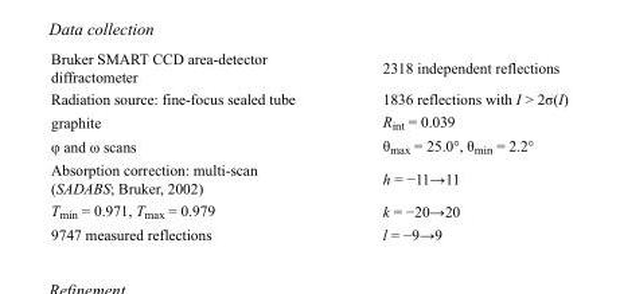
<table><tbody><tr><td>Bruker SMART CCD area-detector diffractometer</td><td>2318 independent reflections</td></tr><tr><td>Radiation source: fine-focus sealed tube</td><td>1836 reflections with I &gt; 2σ(I)</td></tr><tr><td>graphite</td><td>R<sub>int</sub> = 0.039</td></tr><tr><td>φ and ω scans</td><td>θ<sub>max</sub> = 25.0°, θ<sub>min</sub> = 2.2°</td></tr><tr><td>Absorption correction: multi-scan (SADABS; Bruker, 2002)</td><td>h = −11→11</td></tr><tr><td>T<sub>min</sub> = 0.971, T<sub>max</sub> = 0.979</td><td>k = −20→20</td></tr><tr><td>9747 measured reflections</td><td>l = −9→9</td></tr></tbody></table>